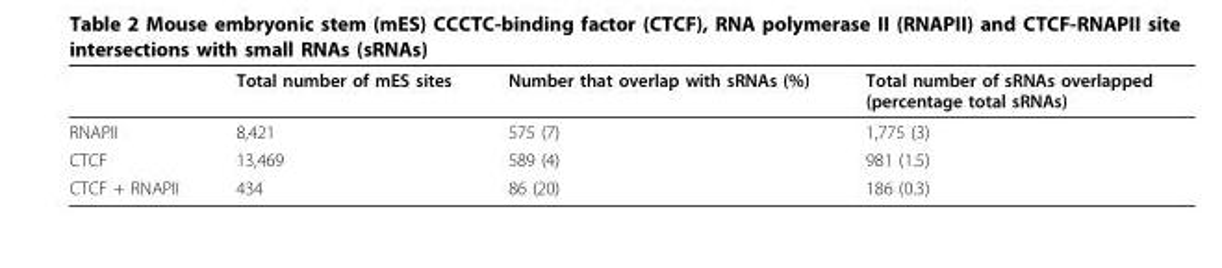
<table><thead><tr><td></td><td>Total number of mES sites</td><td>Number that overlap with sRNAs (%)</td><td>Total number of sRNAs overlapped (percentage total sRNAs)</td></tr></thead><tbody><tr><td>RNAPII</td><td>8,421</td><td>575 (7)</td><td>1,775 (3)</td></tr><tr><td>CTCF</td><td>13,469</td><td>589 (4)</td><td>981 (1.5)</td></tr><tr><td>CTCF + RNAPII</td><td>434</td><td>86 (20)</td><td>186 (0.3)</td></tr></tbody></table>